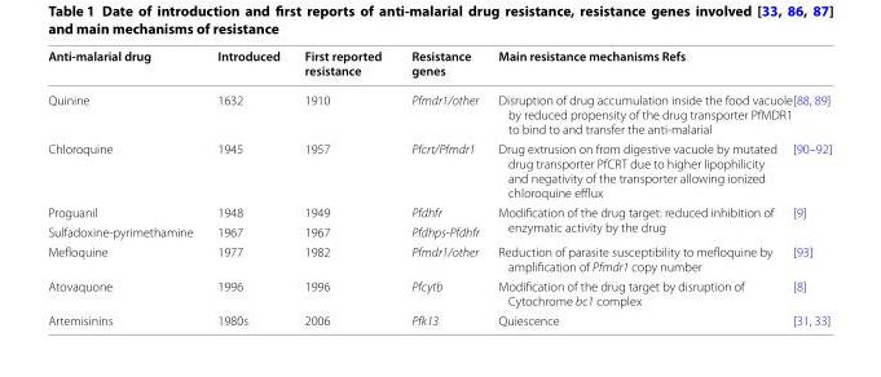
<table><thead><tr><td rowspan="2">Anti-malarial drug Quinine</td><td rowspan="2">Introduced 1632</td><td rowspan="2">First reported resistance 1910</td><td rowspan="2">Resistance genes Pfmdr1/other</td><td colspan="2">Main resistance mechanisms Refs</td></tr><tr><td>Disruption of drug accumulation inside the food vacuole by reduced propensity of the drug transporter PfMDR1 to bind to and transfer the anti‑malarial</td><td>[88, 89]</td></tr></thead><tbody><tr><td>Chloroquine</td><td>1945</td><td>1957</td><td>Pfcrt/Pfmdr1</td><td>Drug extrusion on from digestive vacuole by mutated drug transporter PfCRT due to higher lipophilicity and negativity of the transporter allowing ionized chloroquine efflux</td><td>[90–92]</td></tr><tr><td>Proguanil</td><td>1948</td><td>1949</td><td>Pfdhfr</td><td rowspan="2">Modification of the drug target: reduced inhibition of enzymatic activity by the drug</td><td rowspan="2">[9]</td></tr><tr><td>Sulfadoxine‑pyrimethamine</td><td>1967</td><td>1967</td><td>Pfdhps‑Pfdhfr</td></tr><tr><td>Mefloquine</td><td>1977</td><td>1982</td><td>Pfmdr1/other</td><td>Reduction of parasite susceptibility to mefloquine by amplification of Pfmdr1 copy number</td><td>[93]</td></tr><tr><td>Atovaquone</td><td>1996</td><td>1996</td><td>Pfcytb</td><td>Modification of the drug target by disruption of Cytochrome bc1 complex</td><td>[8]</td></tr><tr><td>Artemisinins</td><td>1980s</td><td>2006</td><td>Pfk13</td><td>Quiescence</td><td>[31, 33]</td></tr></tbody></table>